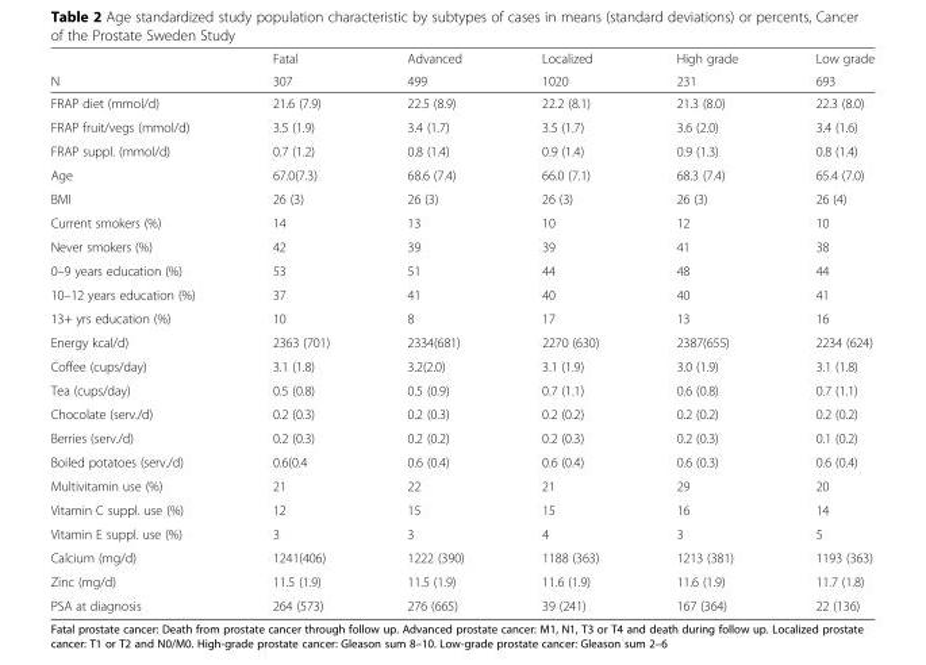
<table><thead><tr><td rowspan="2">N</td><td rowspan="2">Fatal 307</td><td rowspan="2">Advanced 499</td><td rowspan="2">Localized 1020</td><td rowspan="2">High grade 231</td><td rowspan="2">Low grade 693</td></tr><tr></tr></thead><tbody><tr><td>FRAP diet (mmol/d)</td><td>21.6 (7.9)</td><td>22.5 (8.9)</td><td>22.2 (8.1)</td><td>21.3 (8.0)</td><td>22.3 (8.0)</td></tr><tr><td>FRAP fruit/vegs (mmol/d)</td><td>3.5 (1.9)</td><td>3.4 (1.7)</td><td>3.5 (1.7)</td><td>3.6 (2.0)</td><td>3.4 (1.6)</td></tr><tr><td>FRAP suppl. (mmol/d)</td><td>0.7 (1.2)</td><td>0.8 (1.4)</td><td>0.9 (1.4)</td><td>0.9 (1.3)</td><td>0.8 (1.4)</td></tr><tr><td>Age</td><td>67.0(7.3)</td><td>68.6 (7.4)</td><td>66.0 (7.1)</td><td>68.3 (7.4)</td><td>65.4 (7.0)</td></tr><tr><td>BMI</td><td>26 (3)</td><td>26 (3)</td><td>26 (3)</td><td>26 (3)</td><td>26 (4)</td></tr><tr><td>Current smokers (%)</td><td>14</td><td>13</td><td>10</td><td>12</td><td>10</td></tr><tr><td>Never smokers (%)</td><td>42</td><td>39</td><td>39</td><td>41</td><td>38</td></tr><tr><td>0–9 years education (%)</td><td>53</td><td>51</td><td>44</td><td>48</td><td>44</td></tr><tr><td>10–12 years education (%)</td><td>37</td><td>41</td><td>40</td><td>40</td><td>41</td></tr><tr><td>13+ yrs education (%)</td><td>10</td><td>8</td><td>17</td><td>13</td><td>16</td></tr><tr><td>Energy kcal/d)</td><td>2363 (701)</td><td>2334(681)</td><td>2270 (630)</td><td>2387(655)</td><td>2234 (624)</td></tr><tr><td>Coffee (cups/day)</td><td>3.1 (1.8)</td><td>3.2(2.0)</td><td>3.1 (1.9)</td><td>3.0 (1.9)</td><td>3.1 (1.8)</td></tr><tr><td>Tea (cups/day)</td><td>0.5 (0.8)</td><td>0.5 (0.9)</td><td>0.7 (1.1)</td><td>0.6 (0.8)</td><td>0.7 (1.1)</td></tr><tr><td>Chocolate (serv./d)</td><td>0.2 (0.3)</td><td>0.2 (0.3)</td><td>0.2 (0.2)</td><td>0.2 (0.2)</td><td>0.2 (0.2)</td></tr><tr><td>Berries (serv./d)</td><td>0.2 (0.3)</td><td>0.2 (0.2)</td><td>0.2 (0.3)</td><td>0.2 (0.3)</td><td>0.1 (0.2)</td></tr><tr><td>Boiled potatoes (serv./d)</td><td>0.6(0.4</td><td>0.6 (0.4)</td><td>0.6 (0.4)</td><td>0.6 (0.3)</td><td>0.6 (0.4)</td></tr><tr><td>Multivitamin use (%)</td><td>21</td><td>22</td><td>21</td><td>29</td><td>20</td></tr><tr><td>Vitamin C suppl. use (%)</td><td>12</td><td>15</td><td>15</td><td>16</td><td>14</td></tr><tr><td>Vitamin E suppl. use (%)</td><td>3</td><td>3</td><td>4</td><td>3</td><td>5</td></tr><tr><td>Calcium (mg/d)</td><td>1241(406)</td><td>1222 (390)</td><td>1188 (363)</td><td>1213 (381)</td><td>1193 (363)</td></tr><tr><td>Zinc (mg/d)</td><td>11.5 (1.9)</td><td>11.5 (1.9)</td><td>11.6 (1.9)</td><td>11.6 (1.9)</td><td>11.7 (1.8)</td></tr><tr><td>PSA at diagnosis</td><td>264 (573)</td><td>276 (665)</td><td>39 (241)</td><td>167 (364)</td><td>22 (136)</td></tr></tbody></table>